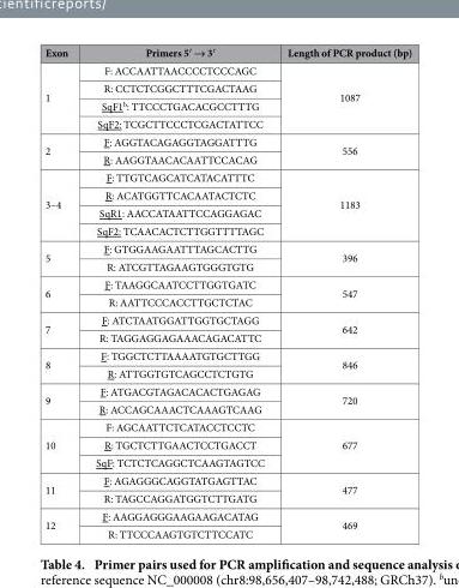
<table><thead><tr><td>Exon</td><td>Primers 5′ → 3′</td><td>Length of PCR product (bp)</td></tr></thead><tbody><tr><td rowspan="4">1</td><td>F: ACCAATTAACCCCTCCCAGC</td><td rowspan="4">1087</td></tr><tr><td>R: CCTCTCGGCTTTCGACTAAG</td></tr><tr><td>SqF1<sup>b</sup>: TTCCCTGACACGCCTTTG</td></tr><tr><td>SqF2: TCGCTTCCCTCGACTATTCC</td></tr><tr><td rowspan="2">2</td><td>F: AGGTACAGAGGTAGGATTTG</td><td rowspan="2">556</td></tr><tr><td>R: AAGGTAACACAATTCCACAG</td></tr><tr><td rowspan="4">3–4</td><td>F: TTGTCAGCATCATACATTTC</td><td rowspan="4">1183</td></tr><tr><td>R: ACATGGTTCACAATACTCTC</td></tr><tr><td>SqR1: AACCATAATTCCAGGAGAC</td></tr><tr><td>SqF2: TCAACACTCTTGGTTTTAGC</td></tr><tr><td rowspan="2">5</td><td>F: GTGGAAGAATTTAGCACTTG</td><td rowspan="2">396</td></tr><tr><td>R: ATCGTTAGAAGTGGGTGTG</td></tr><tr><td rowspan="2">6</td><td>F: TAAGGCAATCCTTGGTGATC</td><td rowspan="2">547</td></tr><tr><td>R: AATTCCCACCTTGCTCTAC</td></tr><tr><td rowspan="2">7</td><td>F: ATCTAATGGATTGGTGCTAGG</td><td rowspan="2">642</td></tr><tr><td>R: TAGGAGGAGAAACAGACATTC</td></tr><tr><td rowspan="2">8</td><td>F: TGGCTCTTAAAATGTGCTTGG</td><td rowspan="2">846</td></tr><tr><td>R: ATTGGTGTCAGCCTCTGTG</td></tr><tr><td rowspan="2">9</td><td>F: ATGACGTAGACACACTGAGAG</td><td rowspan="2">720</td></tr><tr><td>R: ACCAGCAAACTCAAAGTCAAG</td></tr><tr><td rowspan="3">10</td><td>F: AGCAATTCTCATACCTCCTC</td><td rowspan="3">677</td></tr><tr><td>R: TGCTCTTGAACTCCTGACCT</td></tr><tr><td>SqF: TCTCTCAGGCTCAAGTAGTCC</td></tr><tr><td rowspan="2">11</td><td>F: AGAGGGCAGGTATGAGTTAC</td><td rowspan="2">477</td></tr><tr><td>R: TAGCCAGGATGGTCTTGATG</td></tr><tr><td rowspan="2">12</td><td>F: AAGGAGGGAAGAAGACATAG</td><td rowspan="2">469</td></tr><tr><td>R: TTCCCAAGTGTCTTCCATC</td></tr></tbody></table>